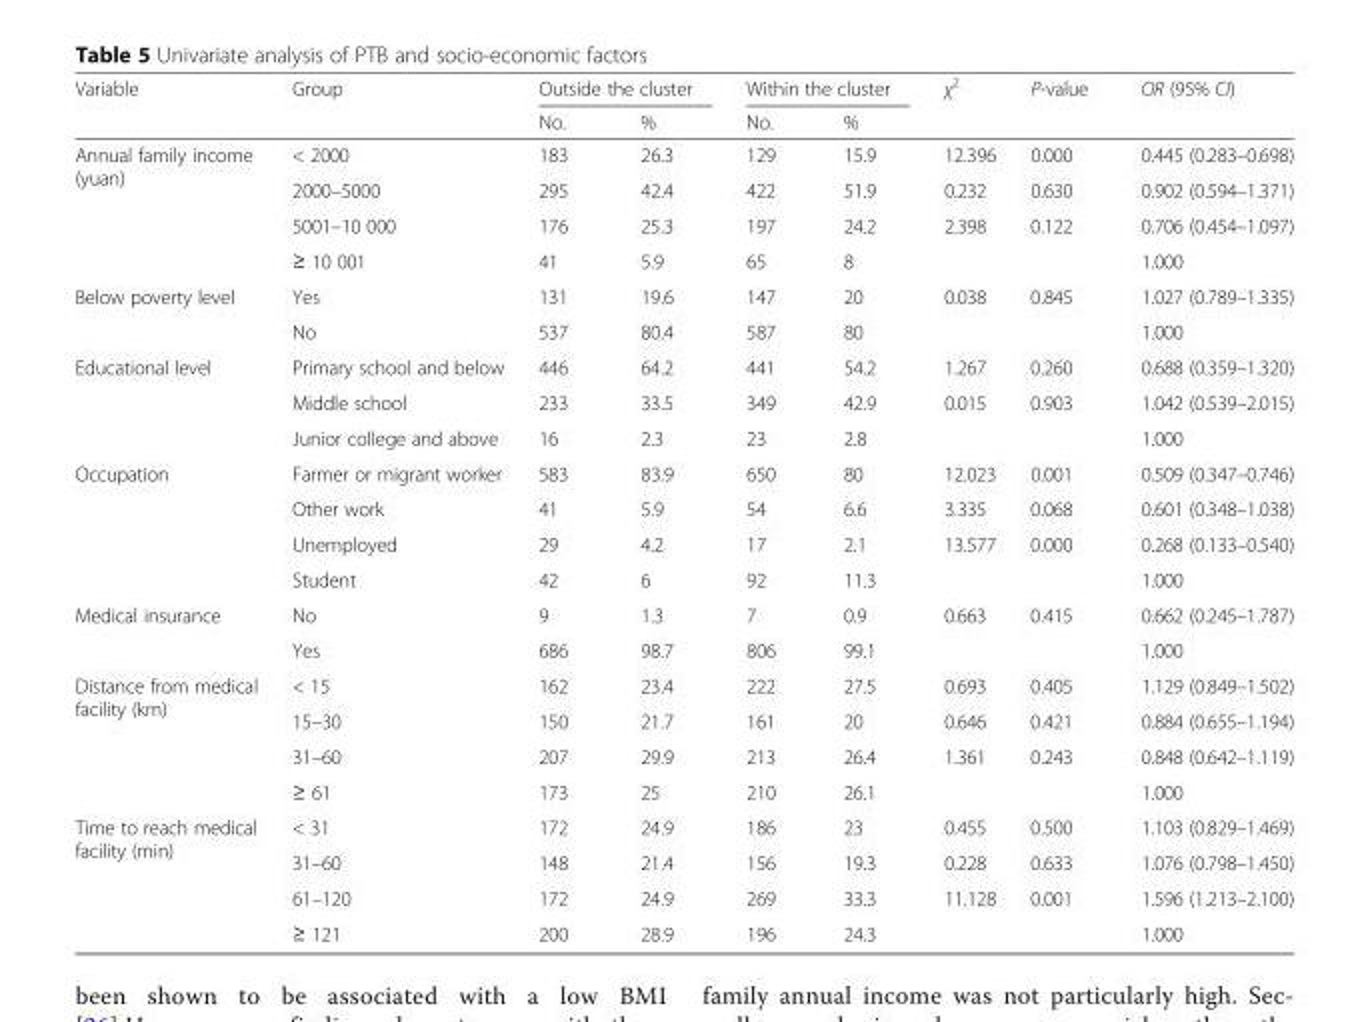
<table><thead><tr><td rowspan="2">Variable</td><td rowspan="2">Group</td><td colspan="2">Outside the cluster</td><td colspan="2">Within the cluster</td><td rowspan="2">χ<sup>2</sup></td><td rowspan="2">P-value</td><td rowspan="2">OR (95% CI)</td></tr><tr><td>No.</td><td>%</td><td>No.</td><td>%</td></tr></thead><tbody><tr><td rowspan="4">Annual family income (yuan)</td><td>&lt; 2000</td><td>183</td><td>26.3</td><td>129</td><td>15.9</td><td>12.396</td><td>0.000</td><td>0.445 (0.283–0.698)</td></tr><tr><td>2000–5000</td><td>295</td><td>42.4</td><td>422</td><td>51.9</td><td>0.232</td><td>0.630</td><td>0.902 (0.594–1.371)</td></tr><tr><td>5001–10 000</td><td>176</td><td>25.3</td><td>197</td><td>24.2</td><td>2.398</td><td>0.122</td><td>0.706 (0.454–1.097)</td></tr><tr><td>≥ 10 001</td><td>41</td><td>5.9</td><td>65</td><td>8</td><td></td><td></td><td>1.000</td></tr><tr><td rowspan="2">Below poverty level</td><td>Yes</td><td>131</td><td>19.6</td><td>147</td><td>20</td><td>0.038</td><td>0.845</td><td>1.027 (0.789–1.335)</td></tr><tr><td>No</td><td>537</td><td>80.4</td><td>587</td><td>80</td><td></td><td></td><td>1.000</td></tr><tr><td rowspan="3">Educational level</td><td>Primary school and below</td><td>446</td><td>64.2</td><td>441</td><td>54.2</td><td>1.267</td><td>0.260</td><td>0.688 (0.359–1.320)</td></tr><tr><td>Middle school</td><td>233</td><td>33.5</td><td>349</td><td>42.9</td><td>0.015</td><td>0.903</td><td>1.042 (0.539–2.015)</td></tr><tr><td>Junior college and above</td><td>16</td><td>2.3</td><td>23</td><td>2.8</td><td></td><td></td><td>1.000</td></tr><tr><td rowspan="4">Occupation</td><td>Farmer or migrant worker</td><td>583</td><td>83.9</td><td>650</td><td>80</td><td>12.023</td><td>0.001</td><td>0.509 (0.347–0.746)</td></tr><tr><td>Other work</td><td>41</td><td>5.9</td><td>54</td><td>6.6</td><td>3.335</td><td>0.068</td><td>0.601 (0.348–1.038)</td></tr><tr><td>Unemployed</td><td>29</td><td>4.2</td><td>17</td><td>2.1</td><td>13.577</td><td>0.000</td><td>0.268 (0.133–0.540)</td></tr><tr><td>Student</td><td>42</td><td>6</td><td>92</td><td>11.3</td><td></td><td></td><td>1.000</td></tr><tr><td rowspan="2">Medical insurance</td><td>No</td><td>9</td><td>1.3</td><td>7</td><td>0.9</td><td>0.663</td><td>0.415</td><td>0.662 (0.245–1.787)</td></tr><tr><td>Yes</td><td>686</td><td>98.7</td><td>806</td><td>99.1</td><td></td><td></td><td>1.000</td></tr><tr><td rowspan="4">Distance from medical facility (km)</td><td>&lt; 15</td><td>162</td><td>23.4</td><td>222</td><td>27.5</td><td>0.693</td><td>0.405</td><td>1.129 (0.849–1.502)</td></tr><tr><td>15–30</td><td>150</td><td>21.7</td><td>161</td><td>20</td><td>0.646</td><td>0.421</td><td>0.884 (0.655–1.194)</td></tr><tr><td>31–60</td><td>207</td><td>29.9</td><td>213</td><td>26.4</td><td>1.361</td><td>0.243</td><td>0.848 (0.642–1.119)</td></tr><tr><td>≥ 61</td><td>173</td><td>25</td><td>210</td><td>26.1</td><td></td><td></td><td>1.000</td></tr><tr><td rowspan="4">Time to reach medical facility (min)</td><td>&lt; 31</td><td>172</td><td>24.9</td><td>186</td><td>23</td><td>0.455</td><td>0.500</td><td>1.103 (0.829–1.469)</td></tr><tr><td>31–60</td><td>148</td><td>21.4</td><td>156</td><td>19.3</td><td>0.228</td><td>0.633</td><td>1.076 (0.798–1.450)</td></tr><tr><td>61–120</td><td>172</td><td>24.9</td><td>269</td><td>33.3</td><td>11.128</td><td>0.001</td><td>1.596 (1.213–2.100)</td></tr><tr><td>≥ 121</td><td>200</td><td>28.9</td><td>196</td><td>24.3</td><td></td><td></td><td>1.000</td></tr></tbody></table>